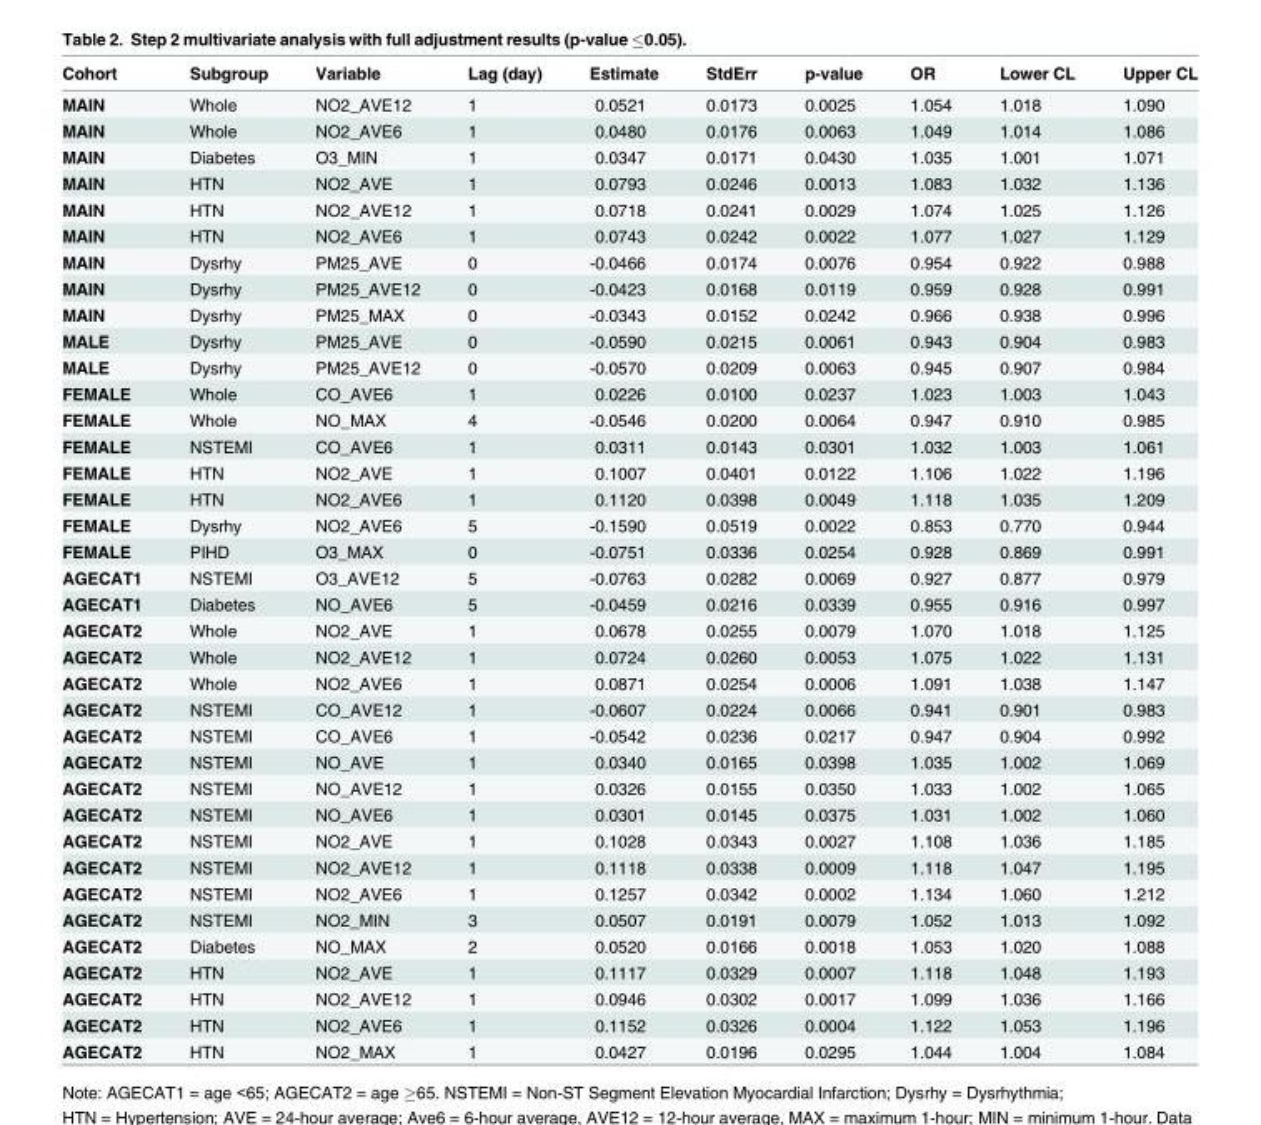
<table><thead><tr><td>Cohort</td><td>Subgroup</td><td>Variable</td><td>Lag (day)</td><td>Estimate</td><td>StdErr</td><td>p-value</td><td>OR</td><td>Lower CL</td><td>Upper CL</td></tr></thead><tbody><tr><td>MAIN</td><td>Whole</td><td>NO2_AVE12</td><td>1</td><td>0.0521</td><td>0.0173</td><td>0.0025</td><td>1.054</td><td>1.018</td><td>1.090</td></tr><tr><td>MAIN</td><td>Whole</td><td>NO2_AVE6</td><td>1</td><td>0.0480</td><td>0.0176</td><td>0.0063</td><td>1.049</td><td>1.014</td><td>1.086</td></tr><tr><td>MAIN</td><td>Diabetes</td><td>O3_MIN</td><td>1</td><td>0.0347</td><td>0.0171</td><td>0.0430</td><td>1.035</td><td>1.001</td><td>1.071</td></tr><tr><td>MAIN</td><td>HTN</td><td>NO2_AVE</td><td>1</td><td>0.0793</td><td>0.0246</td><td>0.0013</td><td>1.083</td><td>1.032</td><td>1.136</td></tr><tr><td>MAIN</td><td>HTN</td><td>NO2_AVE12</td><td>1</td><td>0.0718</td><td>0.0241</td><td>0.0029</td><td>1.074</td><td>1.025</td><td>1.126</td></tr><tr><td>MAIN</td><td>HTN</td><td>NO2_AVE6</td><td>1</td><td>0.0743</td><td>0.0242</td><td>0.0022</td><td>1.077</td><td>1.027</td><td>1.129</td></tr><tr><td>MAIN</td><td>Dysrhy</td><td>PM25_AVE</td><td>0</td><td>-0.0466</td><td>0.0174</td><td>0.0076</td><td>0.954</td><td>0.922</td><td>0.988</td></tr><tr><td>MAIN</td><td>Dysrhy</td><td>PM25_AVE12</td><td>0</td><td>-0.0423</td><td>0.0168</td><td>0.0119</td><td>0.959</td><td>0.928</td><td>0.991</td></tr><tr><td>MAIN</td><td>Dysrhy</td><td>PM25_MAX</td><td>0</td><td>-0.0343</td><td>0.0152</td><td>0.0242</td><td>0.966</td><td>0.938</td><td>0.996</td></tr><tr><td>MALE</td><td>Dysrhy</td><td>PM25_AVE</td><td>0</td><td>-0.0590</td><td>0.0215</td><td>0.0061</td><td>0.943</td><td>0.904</td><td>0.983</td></tr><tr><td>MALE</td><td>Dysrhy</td><td>PM25_AVE12</td><td>0</td><td>-0.0570</td><td>0.0209</td><td>0.0063</td><td>0.945</td><td>0.907</td><td>0.984</td></tr><tr><td>FEMALE</td><td>Whole</td><td>CO_AVE6</td><td>1</td><td>0.0226</td><td>0.0100</td><td>0.0237</td><td>1.023</td><td>1.003</td><td>1.043</td></tr><tr><td>FEMALE</td><td>Whole</td><td>NO_MAX</td><td>4</td><td>-0.0546</td><td>0.0200</td><td>0.0064</td><td>0.947</td><td>0.910</td><td>0.985</td></tr><tr><td>FEMALE</td><td>NSTEMI</td><td>CO_AVE6</td><td>1</td><td>0.0311</td><td>0.0143</td><td>0.0301</td><td>1.032</td><td>1.003</td><td>1.061</td></tr><tr><td>FEMALE</td><td>HTN</td><td>NO2_AVE</td><td>1</td><td>0.1007</td><td>0.0401</td><td>0.0122</td><td>1.106</td><td>1.022</td><td>1.196</td></tr><tr><td>FEMALE</td><td>HTN</td><td>NO2_AVE6</td><td>1</td><td>0.1120</td><td>0.0398</td><td>0.0049</td><td>1.118</td><td>1.035</td><td>1.209</td></tr><tr><td>FEMALE</td><td>Dysrhy</td><td>NO2_AVE6</td><td>5</td><td>-0.1590</td><td>0.0519</td><td>0.0022</td><td>0.853</td><td>0.770</td><td>0.944</td></tr><tr><td>FEMALE</td><td>PIHD</td><td>O3_MAX</td><td>0</td><td>-0.0751</td><td>0.0336</td><td>0.0254</td><td>0.928</td><td>0.869</td><td>0.991</td></tr><tr><td>AGECAT1</td><td>NSTEMI</td><td>O3_AVE12</td><td>5</td><td>-0.0763</td><td>0.0282</td><td>0.0069</td><td>0.927</td><td>0.877</td><td>0.979</td></tr><tr><td>AGECAT1</td><td>Diabetes</td><td>NO_AVE6</td><td>5</td><td>-0.0459</td><td>0.0216</td><td>0.0339</td><td>0.955</td><td>0.916</td><td>0.997</td></tr><tr><td>AGECAT2</td><td>Whole</td><td>NO2_AVE</td><td>1</td><td>0.0678</td><td>0.0255</td><td>0.0079</td><td>1.070</td><td>1.018</td><td>1.125</td></tr><tr><td>AGECAT2</td><td>Whole</td><td>NO2_AVE12</td><td>1</td><td>0.0724</td><td>0.0260</td><td>0.0053</td><td>1.075</td><td>1.022</td><td>1.131</td></tr><tr><td>AGECAT2</td><td>Whole</td><td>NO2_AVE6</td><td>1</td><td>0.0871</td><td>0.0254</td><td>0.0006</td><td>1.091</td><td>1.038</td><td>1.147</td></tr><tr><td>AGECAT2</td><td>NSTEMI</td><td>CO_AVE12</td><td>1</td><td>-0.0607</td><td>0.0224</td><td>0.0066</td><td>0.941</td><td>0.901</td><td>0.983</td></tr><tr><td>AGECAT2</td><td>NSTEMI</td><td>CO_AVE6</td><td>1</td><td>-0.0542</td><td>0.0236</td><td>0.0217</td><td>0.947</td><td>0.904</td><td>0.992</td></tr><tr><td>AGECAT2</td><td>NSTEMI</td><td>NO_AVE</td><td>1</td><td>0.0340</td><td>0.0165</td><td>0.0398</td><td>1.035</td><td>1.002</td><td>1.069</td></tr><tr><td>AGECAT2</td><td>NSTEMI</td><td>NO_AVE12</td><td>1</td><td>0.0326</td><td>0.0155</td><td>0.0350</td><td>1.033</td><td>1.002</td><td>1.065</td></tr><tr><td>AGECAT2</td><td>NSTEMI</td><td>NO_AVE6</td><td>1</td><td>0.0301</td><td>0.0145</td><td>0.0375</td><td>1.031</td><td>1.002</td><td>1.060</td></tr><tr><td>AGECAT2</td><td>NSTEMI</td><td>NO2_AVE</td><td>1</td><td>0.1028</td><td>0.0343</td><td>0.0027</td><td>1.108</td><td>1.036</td><td>1.185</td></tr><tr><td>AGECAT2</td><td>NSTEMI</td><td>NO2_AVE12</td><td>1</td><td>0.1118</td><td>0.0338</td><td>0.0009</td><td>1.118</td><td>1.047</td><td>1.195</td></tr><tr><td>AGECAT2</td><td>NSTEMI</td><td>NO2_AVE6</td><td>1</td><td>0.1257</td><td>0.0342</td><td>0.0002</td><td>1.134</td><td>1.060</td><td>1.212</td></tr><tr><td>AGECAT2</td><td>NSTEMI</td><td>NO2_MIN</td><td>3</td><td>0.0507</td><td>0.0191</td><td>0.0079</td><td>1.052</td><td>1.013</td><td>1.092</td></tr><tr><td>AGECAT2</td><td>Diabetes</td><td>NO_MAX</td><td>2</td><td>0.0520</td><td>0.0166</td><td>0.0018</td><td>1.053</td><td>1.020</td><td>1.088</td></tr><tr><td>AGECAT2</td><td>HTN</td><td>NO2_AVE</td><td>1</td><td>0.1117</td><td>0.0329</td><td>0.0007</td><td>1.118</td><td>1.048</td><td>1.193</td></tr><tr><td>AGECAT2</td><td>HTN</td><td>NO2_AVE12</td><td>1</td><td>0.0946</td><td>0.0302</td><td>0.0017</td><td>1.099</td><td>1.036</td><td>1.166</td></tr><tr><td>AGECAT2</td><td>HTN</td><td>NO2_AVE6</td><td>1</td><td>0.1152</td><td>0.0326</td><td>0.0004</td><td>1.122</td><td>1.053</td><td>1.196</td></tr><tr><td>AGECAT2</td><td>HTN</td><td>NO2_MAX</td><td>1</td><td>0.0427</td><td>0.0196</td><td>0.0295</td><td>1.044</td><td>1.004</td><td>1.084</td></tr></tbody></table>